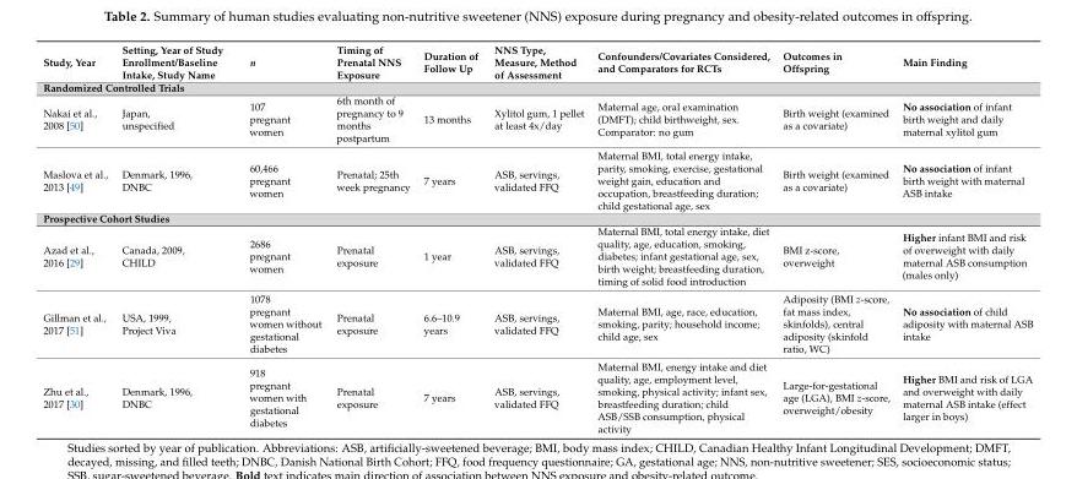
<table><thead><tr><td>Study, Year</td><td>Setting, Year of Study Enrollment/Baseline Intake, Study Name</td><td>n</td><td>Timing of Prenatal NNS Exposure</td><td>Duration of Follow Up</td><td>NNS Type, Measure, Method of Assessment</td><td>Confounders/Covariates Considered, and Comparators for RCTs</td><td>Outcomes in Offspring</td><td>Main Finding</td></tr></thead><tbody><tr><td colspan="9">Randomized Controlled Trials</td></tr><tr><td>Nakai et al., 2008 [50]</td><td>Japan, unspecified</td><td>107 pregnant women</td><td>6th month of pregnancy to 9 months postpartum</td><td>13 months</td><td>Xylitol gum, 1 pellet at least 4x/day</td><td>Maternal age, oral examination (DMFT); child birthweight, sex. Comparator: no gum</td><td>Birth weight (examined as a covariate)</td><td>No association of infant birth weight and daily maternal xylitol gum</td></tr><tr><td>Maslova et al., 2013 [49]</td><td>Denmark, 1996, DNBC</td><td>60,466 pregnant women</td><td>Prenatal; 25th week pregnancy</td><td>7 years</td><td>ASB, servings, validated FFQ</td><td>Maternal BMI, total energy intake, parity, smoking, exercise, gestational weight gain, education and occupation, breastfeeding duration; child gestational age, sex</td><td>Birth weight (examined as a covariate)</td><td>No association of infant birth weight with maternal ASB intake</td></tr><tr><td colspan="9">Prospective Cohort Studies</td></tr><tr><td>Azad et al., 2016 [29]</td><td>Canada, 2009, CHILD</td><td>2686 pregnant women</td><td>Prenatal exposure</td><td>1 year</td><td>ASB, servings, validated FFQ</td><td>Maternal BMI, total energy intake, diet quality, age, education, smoking, diabetes; infant gestational age, sex, birth weight; breastfeeding duration, timing of solid food introduction</td><td>BMI z-score, overweight</td><td>Higher infant BMI and risk of overweight with daily maternal ASB consumption (males only)</td></tr><tr><td>Gillman et al., 2017 [51]</td><td>USA, 1999, Project Viva</td><td>1078 pregnant women without gestational diabetes</td><td>Prenatal exposure</td><td>6.6–10.9 years</td><td>ASB, servings, validated FFQ</td><td>Maternal BMI, age, race, education, smoking, parity; household income; child age, sex</td><td>Adiposity (BMI z-score, fat mass index, skinfolds), central adiposity (skinfold ratio, WC)</td><td>No association of child adiposity with maternal ASB intake</td></tr><tr><td>Zhu et al., 2017 [30]</td><td>Denmark, 1996, DNBC</td><td>918 pregnant women with gestational diabetes</td><td>Prenatal exposure</td><td>7 years</td><td>ASB, servings, validated FFQ</td><td>Maternal BMI, energy intake and diet quality, age, employment level, smoking, physical activity; infant sex, breastfeeding duration; child ASB/SSB consumption, physical activity</td><td>Large-for-gestational age (LGA), BMI z-score, overweight/obesity</td><td>Higher BMI and risk of LGA and overweight with daily maternal ASB intake (effect larger in boys)</td></tr></tbody></table>